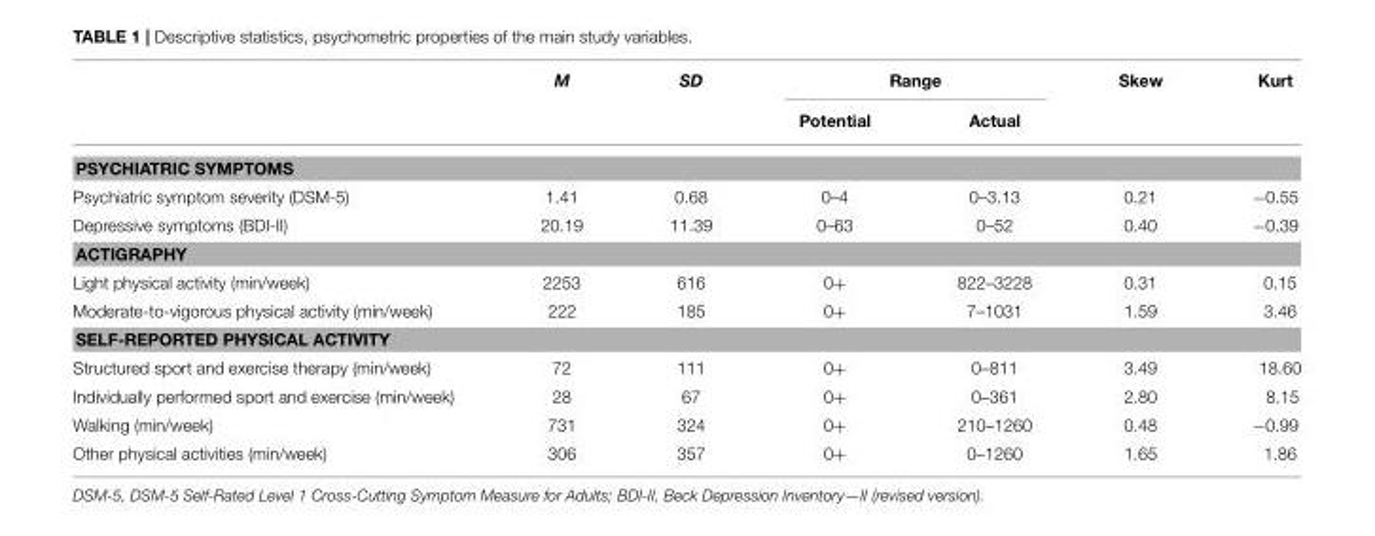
<table><thead><tr><td rowspan="2"></td><td rowspan="2">M</td><td rowspan="2">SD</td><td colspan="2">Range</td><td rowspan="2">Skew</td><td rowspan="2">Kurt</td></tr><tr><td>Potential</td><td>Actual</td></tr></thead><tbody><tr><td colspan="7">PSYCHIATRIC SYMPTOMS</td></tr><tr><td>Psychiatric symptom severity (DSM-5)</td><td>1.41</td><td>0.68</td><td>0–4</td><td>0–3.13</td><td>0.21</td><td>−0.55</td></tr><tr><td>Depressive symptoms (BDI-II)</td><td>20.19</td><td>11.39</td><td>0–63</td><td>0–52</td><td>0.40</td><td>−0.39</td></tr><tr><td colspan="7">ACTIGRAPHY</td></tr><tr><td>Light physical activity (min/week)</td><td>2253</td><td>616</td><td>0+</td><td>822–3228</td><td>0.31</td><td>0.15</td></tr><tr><td>Moderate-to-vigorous physical activity (min/week)</td><td>222</td><td>185</td><td>0+</td><td>7–1031</td><td>1.59</td><td>3.46</td></tr><tr><td colspan="7">SELF-REPORTED PHYSICAL ACTIVITY</td></tr><tr><td>Structured sport and exercise therapy (min/week)</td><td>72</td><td>111</td><td>0+</td><td>0–811</td><td>3.49</td><td>18.60</td></tr><tr><td>Individually performed sport and exercise (min/week)</td><td>28</td><td>67</td><td>0+</td><td>0–361</td><td>2.80</td><td>8.15</td></tr><tr><td>Walking (min/week)</td><td>731</td><td>324</td><td>0+</td><td>210–1260</td><td>0.48</td><td>−0.99</td></tr><tr><td>Other physical activities (min/week)</td><td>306</td><td>357</td><td>0+</td><td>0–1260</td><td>1.65</td><td>1.86</td></tr></tbody></table>